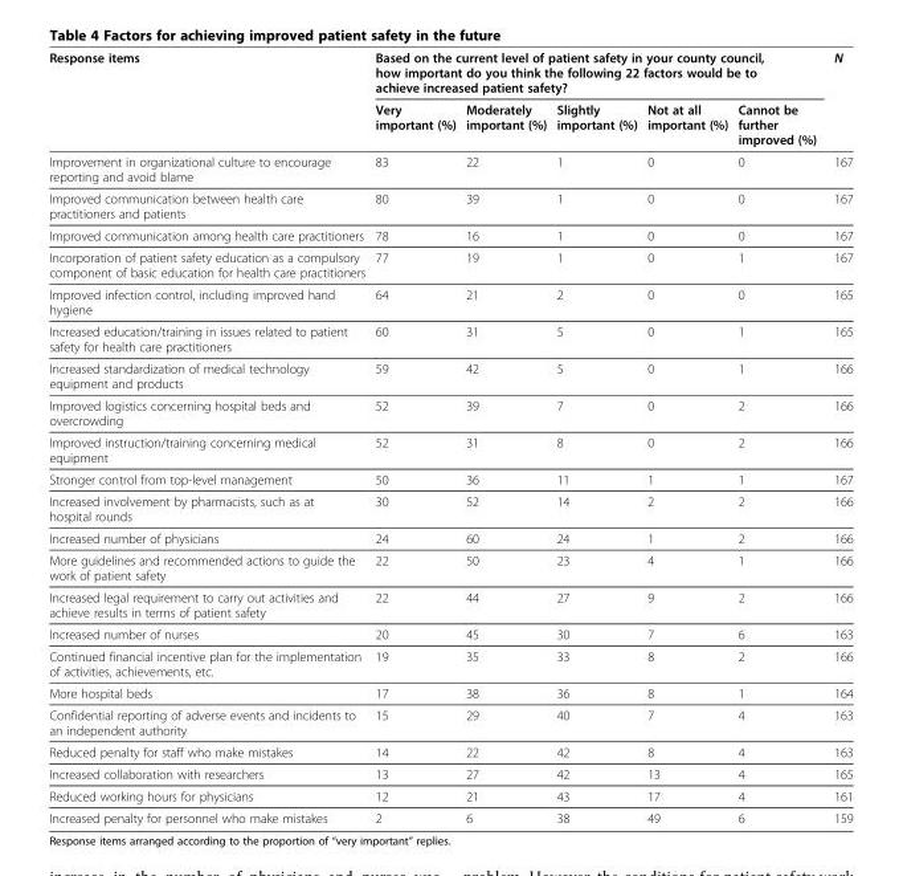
<table><thead><tr><td rowspan="2">Response items</td><td colspan="5">Based on the current level of patient safety in your county council, how important do you think the following 22 factors would be to achieve increased patient safety?</td><td rowspan="2">N</td></tr><tr><td>Very important (%)</td><td>Moderately important (%)</td><td>Slightly important (%)</td><td>Not at all important (%)</td><td>Cannot be further improved (%)</td></tr></thead><tbody><tr><td>Improvement in organizational culture to encourage reporting and avoid blame</td><td>83</td><td>22</td><td>1</td><td>0</td><td>0</td><td>167</td></tr><tr><td>Improved communication between health care practitioners and patients</td><td>80</td><td>39</td><td>1</td><td>0</td><td>0</td><td>167</td></tr><tr><td>Improved communication among health care practitioners</td><td>78</td><td>16</td><td>1</td><td>0</td><td>0</td><td>167</td></tr><tr><td>Incorporation of patient safety education as a compulsory component of basic education for health care practitioners</td><td>77</td><td>19</td><td>1</td><td>0</td><td>1</td><td>167</td></tr><tr><td>Improved infection control, including improved hand hygiene</td><td>64</td><td>21</td><td>2</td><td>0</td><td>0</td><td>165</td></tr><tr><td>Increased education/training in issues related to patient safety for health care practitioners</td><td>60</td><td>31</td><td>5</td><td>0</td><td>1</td><td>165</td></tr><tr><td>Increased standardization of medical technology equipment and products</td><td>59</td><td>42</td><td>5</td><td>0</td><td>1</td><td>166</td></tr><tr><td>Improved logistics concerning hospital beds and overcrowding</td><td>52</td><td>39</td><td>7</td><td>0</td><td>2</td><td>166</td></tr><tr><td>Improved instruction/training concerning medical equipment</td><td>52</td><td>31</td><td>8</td><td>0</td><td>2</td><td>166</td></tr><tr><td>Stronger control from top-level management</td><td>50</td><td>36</td><td>11</td><td>1</td><td>1</td><td>167</td></tr><tr><td>Increased involvement by pharmacists, such as at hospital rounds</td><td>30</td><td>52</td><td>14</td><td>2</td><td>2</td><td>166</td></tr><tr><td>Increased number of physicians</td><td>24</td><td>60</td><td>24</td><td>1</td><td>2</td><td>166</td></tr><tr><td>More guidelines and recommended actions to guide the work of patient safety</td><td>22</td><td>50</td><td>23</td><td>4</td><td>1</td><td>166</td></tr><tr><td>Increased legal requirement to carry out activities and achieve results in terms of patient safety</td><td>22</td><td>44</td><td>27</td><td>9</td><td>2</td><td>166</td></tr><tr><td>Increased number of nurses</td><td>20</td><td>45</td><td>30</td><td>7</td><td>6</td><td>163</td></tr><tr><td>Continued financial incentive plan for the implementation of activities, achievements, etc.</td><td>19</td><td>35</td><td>33</td><td>8</td><td>2</td><td>166</td></tr><tr><td>More hospital beds</td><td>17</td><td>38</td><td>36</td><td>8</td><td>1</td><td>164</td></tr><tr><td>Confidential reporting of adverse events and incidents to an independent authority</td><td>15</td><td>29</td><td>40</td><td>7</td><td>4</td><td>163</td></tr><tr><td>Reduced penalty for staff who make mistakes</td><td>14</td><td>22</td><td>42</td><td>8</td><td>4</td><td>163</td></tr><tr><td>Increased collaboration with researchers</td><td>13</td><td>27</td><td>42</td><td>13</td><td>4</td><td>165</td></tr><tr><td>Reduced working hours for physicians</td><td>12</td><td>21</td><td>43</td><td>17</td><td>4</td><td>161</td></tr><tr><td>Increased penalty for personnel who make mistakes</td><td>2</td><td>6</td><td>38</td><td>49</td><td>6</td><td>159</td></tr></tbody></table>